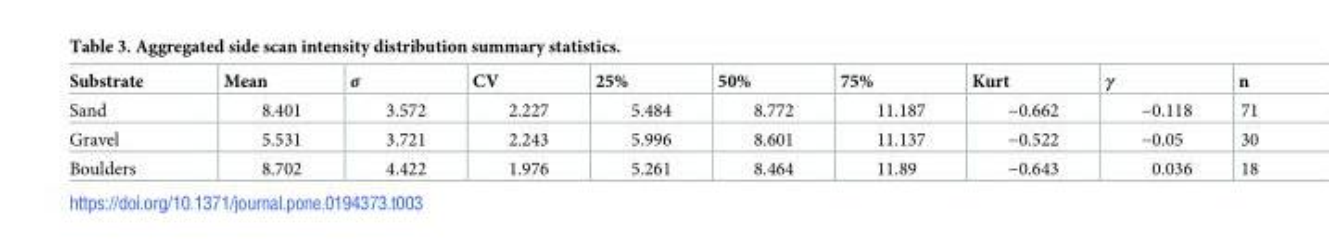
<table><thead><tr><td>Substrate</td><td>Mean</td><td>σ</td><td>CV</td><td>25%</td><td>50%</td><td>75%</td><td>Kurt</td><td>γ</td><td>n</td></tr></thead><tbody><tr><td>Sand</td><td>8.401</td><td>3.572</td><td>2.227</td><td>5.484</td><td>8.772</td><td>11.187</td><td>−0.662</td><td>−0.118</td><td>71</td></tr><tr><td>Gravel</td><td>5.531</td><td>3.721</td><td>2.243</td><td>5.996</td><td>8.601</td><td>11.137</td><td>−0.522</td><td>−0.05</td><td>30</td></tr><tr><td>Boulders</td><td>8.702</td><td>4.422</td><td>1.976</td><td>5.261</td><td>8.464</td><td>11.89</td><td>−0.643</td><td>0.036</td><td>18</td></tr></tbody></table>